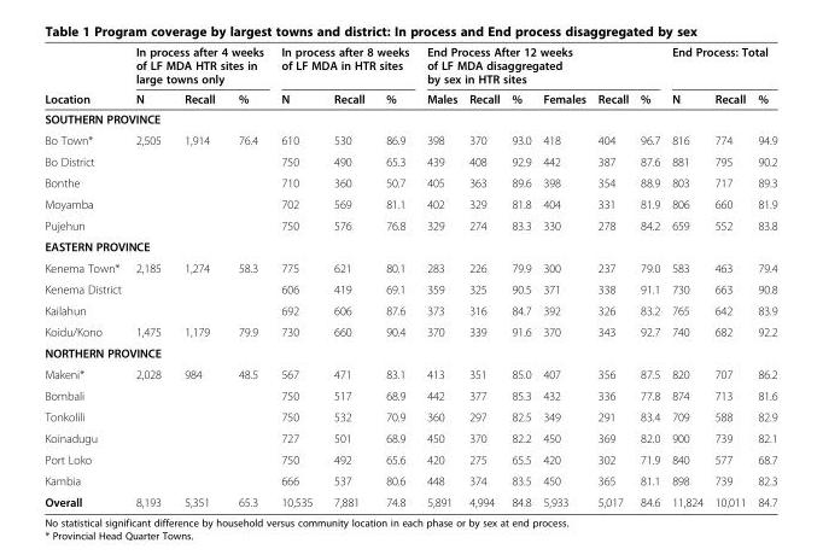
<table><thead><tr><td rowspan="2">Location</td><td colspan="3">In process after 4 weeks of LF MDA HTR sites in large towns only</td><td colspan="3">In process after 8 weeks of LF MDA in HTR sites</td><td colspan="6">End Process After 12 weeks of LF MDA disaggregated by sex in HTR sites</td><td colspan="3">End Process: Total</td></tr><tr><td>N</td><td>Recall</td><td>%</td><td>N</td><td>Recall</td><td>%</td><td>Males</td><td>Recall</td><td>%</td><td>Females</td><td>Recall</td><td>%</td><td>N</td><td>Recall</td><td>%</td></tr></thead><tbody><tr><td colspan="16">SOUTHERN PROVINCE</td></tr><tr><td>Bo Town*</td><td>2,505</td><td>1,914</td><td>76.4</td><td>610</td><td>530</td><td>86.9</td><td>398</td><td>370</td><td>93.0</td><td>418</td><td>404</td><td>96.7</td><td>816</td><td>774</td><td>94.9</td></tr><tr><td>Bo District</td><td></td><td></td><td></td><td>750</td><td>490</td><td>65.3</td><td>439</td><td>408</td><td>92.9</td><td>442</td><td>387</td><td>87.6</td><td>881</td><td>795</td><td>90.2</td></tr><tr><td>Bonthe</td><td></td><td></td><td></td><td>710</td><td>360</td><td>50.7</td><td>405</td><td>363</td><td>89.6</td><td>398</td><td>354</td><td>88.9</td><td>803</td><td>717</td><td>89.3</td></tr><tr><td>Moyamba</td><td></td><td></td><td></td><td>702</td><td>569</td><td>81.1</td><td>402</td><td>329</td><td>81.8</td><td>404</td><td>331</td><td>81.9</td><td>806</td><td>660</td><td>81.9</td></tr><tr><td>Pujehun</td><td></td><td></td><td></td><td>750</td><td>576</td><td>76.8</td><td>329</td><td>274</td><td>83.3</td><td>330</td><td>278</td><td>84.2</td><td>659</td><td>552</td><td>83.8</td></tr><tr><td colspan="16">EASTERN PROVINCE</td></tr><tr><td>Kenema Town*</td><td>2,185</td><td>1,274</td><td>58.3</td><td>775</td><td>621</td><td>80.1</td><td>283</td><td>226</td><td>79.9</td><td>300</td><td>237</td><td>79.0</td><td>583</td><td>463</td><td>79.4</td></tr><tr><td>Kenema District</td><td></td><td></td><td></td><td>606</td><td>419</td><td>69.1</td><td>359</td><td>325</td><td>90.5</td><td>371</td><td>338</td><td>91.1</td><td>730</td><td>663</td><td>90.8</td></tr><tr><td>Kailahun</td><td></td><td></td><td></td><td>692</td><td>606</td><td>87.6</td><td>373</td><td>316</td><td>84.7</td><td>392</td><td>326</td><td>83.2</td><td>765</td><td>642</td><td>83.9</td></tr><tr><td>Koidu/Kono</td><td>1,475</td><td>1,179</td><td>79.9</td><td>730</td><td>660</td><td>90.4</td><td>370</td><td>339</td><td>91.6</td><td>370</td><td>343</td><td>92.7</td><td>740</td><td>682</td><td>92.2</td></tr><tr><td colspan="16">NORTHERN PROVINCE</td></tr><tr><td>Makeni*</td><td>2,028</td><td>984</td><td>48.5</td><td>567</td><td>471</td><td>83.1</td><td>413</td><td>351</td><td>85.0</td><td>407</td><td>356</td><td>87.5</td><td>820</td><td>707</td><td>86.2</td></tr><tr><td>Bombali</td><td></td><td></td><td></td><td>750</td><td>517</td><td>68.9</td><td>442</td><td>377</td><td>85.3</td><td>432</td><td>336</td><td>77.8</td><td>874</td><td>713</td><td>81.6</td></tr><tr><td>Tonkolili</td><td></td><td></td><td></td><td>750</td><td>532</td><td>70.9</td><td>360</td><td>297</td><td>82.5</td><td>349</td><td>291</td><td>83.4</td><td>709</td><td>588</td><td>82.9</td></tr><tr><td>Koinadugu</td><td></td><td></td><td></td><td>727</td><td>501</td><td>68.9</td><td>450</td><td>370</td><td>82.2</td><td>450</td><td>369</td><td>82.0</td><td>900</td><td>739</td><td>82.1</td></tr><tr><td>Port Loko</td><td></td><td></td><td></td><td>750</td><td>492</td><td>65.6</td><td>420</td><td>275</td><td>65.5</td><td>420</td><td>302</td><td>71.9</td><td>840</td><td>577</td><td>68.7</td></tr><tr><td>Kambia</td><td></td><td></td><td></td><td>666</td><td>537</td><td>80.6</td><td>448</td><td>374</td><td>83.5</td><td>450</td><td>365</td><td>81.1</td><td>898</td><td>739</td><td>82.3</td></tr><tr><td>Overall</td><td>8,193</td><td>5,351</td><td>65.3</td><td>10,535</td><td>7,881</td><td>74.8</td><td>5,891</td><td>4,994</td><td>84.8</td><td>5,933</td><td>5,017</td><td>84.6</td><td>11,824</td><td>10,011</td><td>84.7</td></tr></tbody></table>